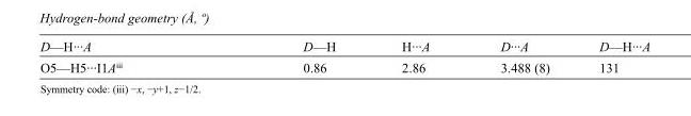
<table><tbody><tr><td>D—H···A</td><td>D—H</td><td>H···A</td><td>D···A</td><td>D—H···A</td></tr><tr><td>O5—H5···I1A<sup>iii</sup></td><td>0.86</td><td>2.86</td><td>3.488 (8)</td><td>131</td></tr></tbody></table>